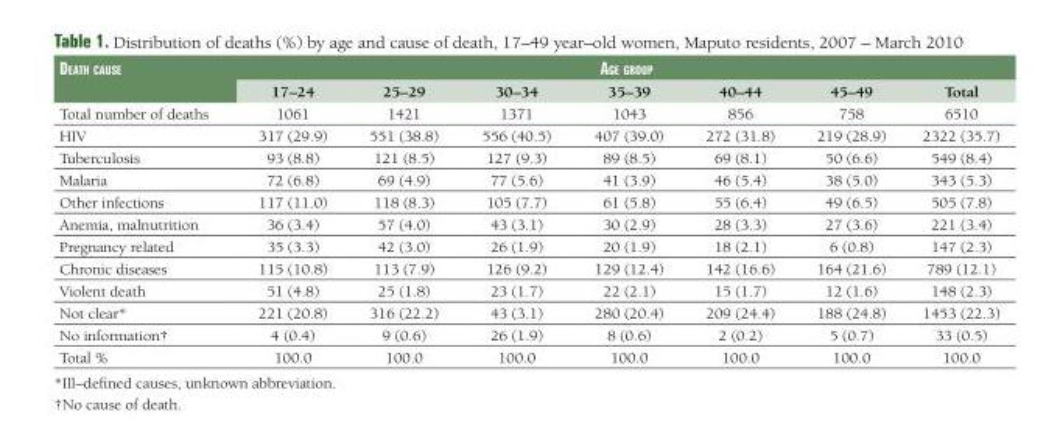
<table><thead><tr><td rowspan="2">Death cause</td><td colspan="7">age group</td></tr><tr><td>17–24</td><td>25–29</td><td>30–34</td><td>35–39</td><td>40–44</td><td>45–49</td><td>Total</td></tr></thead><tbody><tr><td>Total number of deaths</td><td>1061</td><td>1421</td><td>1371</td><td>1043</td><td>856</td><td>758</td><td>6510</td></tr><tr><td>HIV</td><td>317 (29.9)</td><td>551 (38.8)</td><td>556 (40.5)</td><td>407 (39.0)</td><td>272 (31.8)</td><td>219 (28.9)</td><td>2322 (35.7)</td></tr><tr><td>Tuberculosis</td><td>93 (8.8)</td><td>121 (8.5)</td><td>127 (9.3)</td><td>89 (8.5)</td><td>69 (8.1)</td><td>50 (6.6)</td><td>549 (8.4)</td></tr><tr><td>Malaria</td><td>72 (6.8)</td><td>69 (4.9)</td><td>77 (5.6)</td><td>41 (3.9)</td><td>46 (5.4)</td><td>38 (5.0)</td><td>343 (5.3)</td></tr><tr><td>Other infections</td><td>117 (11.0)</td><td>118 (8.3)</td><td>105 (7.7)</td><td>61 (5.8)</td><td>55 (6.4)</td><td>49 (6.5)</td><td>505 (7.8)</td></tr><tr><td>Anemia, malnutrition</td><td>36 (3.4)</td><td>57 (4.0)</td><td>43 (3.1)</td><td>30 (2.9)</td><td>28 (3.3)</td><td>27 (3.6)</td><td>221 (3.4)</td></tr><tr><td>Pregnancy related</td><td>35 (3.3)</td><td>42 (3.0)</td><td>26 (1.9)</td><td>20 (1.9)</td><td>18 (2.1)</td><td>6 (0.8)</td><td>147 (2.3)</td></tr><tr><td>Chronic diseases</td><td>115 (10.8)</td><td>113 (7.9)</td><td>126 (9.2)</td><td>129 (12.4)</td><td>142 (16.6)</td><td>164 (21.6)</td><td>789 (12.1)</td></tr><tr><td>Violent death</td><td>51 (4.8)</td><td>25 (1.8)</td><td>23 (1.7)</td><td>22 (2.1)</td><td>15 (1.7)</td><td>12 (1.6)</td><td>148 (2.3)</td></tr><tr><td>Not clear*</td><td>221 (20.8)</td><td>316 (22.2)</td><td>43 (3.1)</td><td>280 (20.4)</td><td>209 (24.4)</td><td>188 (24.8)</td><td>1453 (22.3)</td></tr><tr><td>No information†</td><td>4 (0.4)</td><td>9 (0.6)</td><td>26 (1.9)</td><td>8 (0.6)</td><td>2 (0.2)</td><td>5 (0.7)</td><td>33 (0.5)</td></tr><tr><td>Total %</td><td>100.0</td><td>100.0</td><td>100.0</td><td>100.0</td><td>100.0</td><td>100.0</td><td>100.0</td></tr></tbody></table>